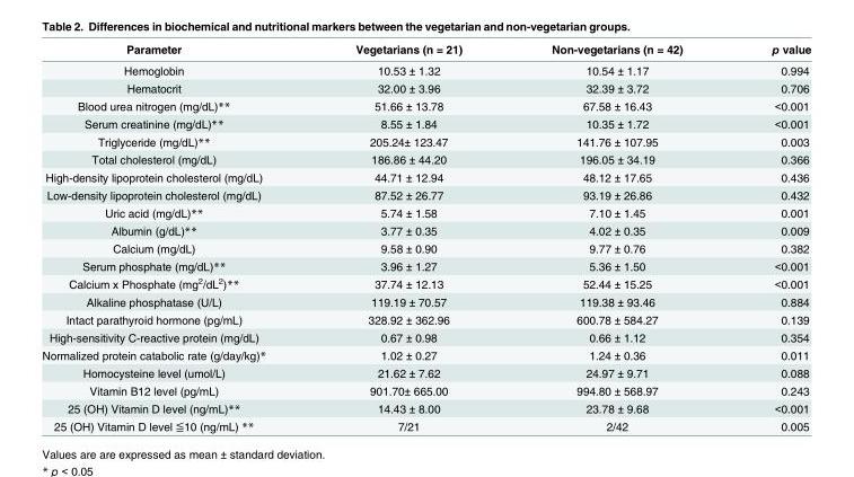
<table><thead><tr><td>Parameter</td><td>Vegetarians (n = 21)</td><td>Non-vegetarians (n = 42)</td><td>p value</td></tr></thead><tbody><tr><td>Hemoglobin</td><td>10.53 ± 1.32</td><td>10.54 ± 1.17</td><td>0.994</td></tr><tr><td>Hematocrit</td><td>32.00 ± 3.96</td><td>32.39 ± 3.72</td><td>0.706</td></tr><tr><td>Blood urea nitrogen (mg/dL)**</td><td>51.66 ± 13.78</td><td>67.58 ± 16.43</td><td>&lt;0.001</td></tr><tr><td>Serum creatinine (mg/dL)**</td><td>8.55 ± 1.84</td><td>10.35 ± 1.72</td><td>&lt;0.001</td></tr><tr><td>Triglyceride (mg/dL)**</td><td>205.24± 123.47</td><td>141.76 ± 107.95</td><td>0.003</td></tr><tr><td>Total cholesterol (mg/dL)</td><td>186.86 ± 44.20</td><td>196.05 ± 34.19</td><td>0.366</td></tr><tr><td>High-density lipoprotein cholesterol (mg/dL)</td><td>44.71 ± 12.94</td><td>48.12 ± 17.65</td><td>0.436</td></tr><tr><td>Low-density lipoprotein cholesterol (mg/dL)</td><td>87.52 ± 26.77</td><td>93.19 ± 26.86</td><td>0.432</td></tr><tr><td>Uric acid (mg/dL)**</td><td>5.74 ± 1.58</td><td>7.10 ± 1.45</td><td>0.001</td></tr><tr><td>Albumin (g/dL)**</td><td>3.77 ± 0.35</td><td>4.02 ± 0.35</td><td>0.009</td></tr><tr><td>Calcium (mg/dL)</td><td>9.58 ± 0.90</td><td>9.77 ± 0.76</td><td>0.382</td></tr><tr><td>Serum phosphate (mg/dL)**</td><td>3.96 ± 1.27</td><td>5.36 ± 1.50</td><td>&lt;0.001</td></tr><tr><td>Calcium x Phosphate (mg<sup>2</sup>/dL<sup>2</sup>)**</td><td>37.74 ± 12.13</td><td>52.44 ± 15.25</td><td>&lt;0.001</td></tr><tr><td>Alkaline phosphatase (U/L)</td><td>119.19 ± 70.57</td><td>119.38 ± 93.46</td><td>0.884</td></tr><tr><td>Intact parathyroid hormone (pg/mL)</td><td>328.92 ± 362.96</td><td>600.78 ± 584.27</td><td>0.139</td></tr><tr><td>High-sensitivity C-reactive protein (mg/dL)</td><td>0.67 ± 0.98</td><td>0.66 ± 1.12</td><td>0.354</td></tr><tr><td>Normalized protein catabolic rate (g/day/kg)*</td><td>1.02 ± 0.27</td><td>1.24 ± 0.36</td><td>0.011</td></tr><tr><td>Homocysteine level (umol/L)</td><td>21.62 ± 7.62</td><td>24.97 ± 9.71</td><td>0.088</td></tr><tr><td>Vitamin B12 level (pg/mL)</td><td>901.70± 665.00</td><td>994.80 ± 568.97</td><td>0.243</td></tr><tr><td>25 (OH) Vitamin D level (ng/mL)**</td><td>14.43 ± 8.00</td><td>23.78 ± 9.68</td><td>&lt;0.001</td></tr><tr><td>25 (OH) Vitamin D level ≦10 (ng/mL) **</td><td>7/21</td><td>2/42</td><td>0.005</td></tr></tbody></table>